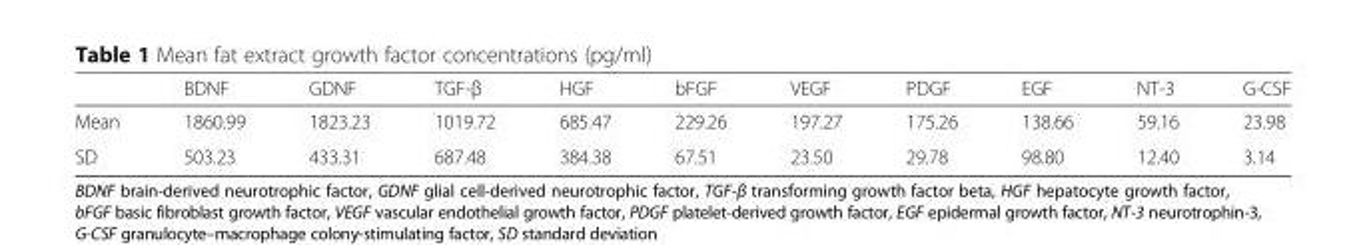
<table><thead><tr><td></td><td>BDNF</td><td>GDNF</td><td>TGF-β</td><td>HGF</td><td>bFGF</td><td>VEGF</td><td>PDGF</td><td>EGF</td><td>NT-3</td><td>G-CSF</td></tr></thead><tbody><tr><td>Mean</td><td>1860.99</td><td>1823.23</td><td>1019.72</td><td>685.47</td><td>229.26</td><td>197.27</td><td>175.26</td><td>138.66</td><td>59.16</td><td>23.98</td></tr><tr><td>SD</td><td>503.23</td><td>433.31</td><td>687.48</td><td>384.38</td><td>67.51</td><td>23.50</td><td>29.78</td><td>98.80</td><td>12.40</td><td>3.14</td></tr></tbody></table>